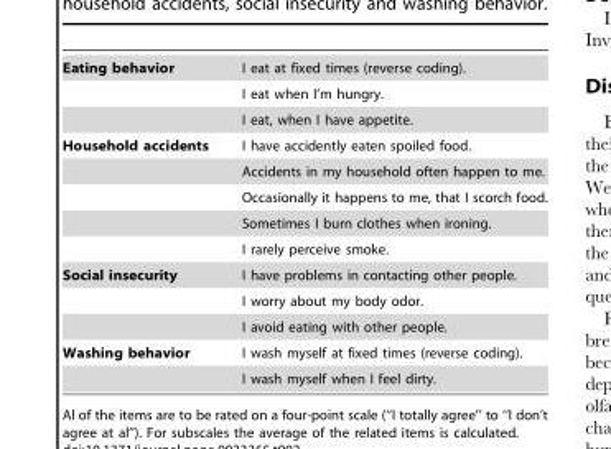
<table><tbody><tr><td rowspan="3">Eating behavior</td><td>I eat at fixed times (reverse coding).</td></tr><tr><td>I eat when I’m hungry.</td></tr><tr><td>I eat, when I have appetite.</td></tr><tr><td rowspan="5">Household accidents</td><td>I have accidently eaten spoiled food.</td></tr><tr><td>Accidents in my household often happen to me.</td></tr><tr><td>Occasionally it happens to me, that I scorch food.</td></tr><tr><td>Sometimes I burn clothes when ironing.</td></tr><tr><td>I rarely perceive smoke.</td></tr><tr><td rowspan="3">Social insecurity</td><td>I have problems in contacting other people.</td></tr><tr><td>I worry about my body odor.</td></tr><tr><td>I avoid eating with other people.</td></tr><tr><td rowspan="2">Washing behavior</td><td>I wash myself at fixed times (reverse coding).</td></tr><tr><td>I wash myself when I feel dirty.</td></tr></tbody></table>